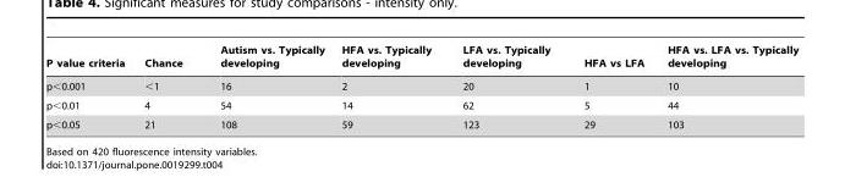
<table><thead><tr><td>P value criteria</td><td>Chance</td><td>Autism vs. Typically developing</td><td>HFA vs. Typically developing</td><td>LFA vs. Typically developing</td><td>HFA vs LFA</td><td>HFA vs. LFA vs. Typically developing</td></tr></thead><tbody><tr><td>p&lt;0.001</td><td>&lt;1</td><td>16</td><td>2</td><td>20</td><td>1</td><td>10</td></tr><tr><td>p&lt;0.01</td><td>4</td><td>54</td><td>14</td><td>62</td><td>5</td><td>44</td></tr><tr><td>p&lt;0.05</td><td>21</td><td>108</td><td>59</td><td>123</td><td>29</td><td>103</td></tr></tbody></table>